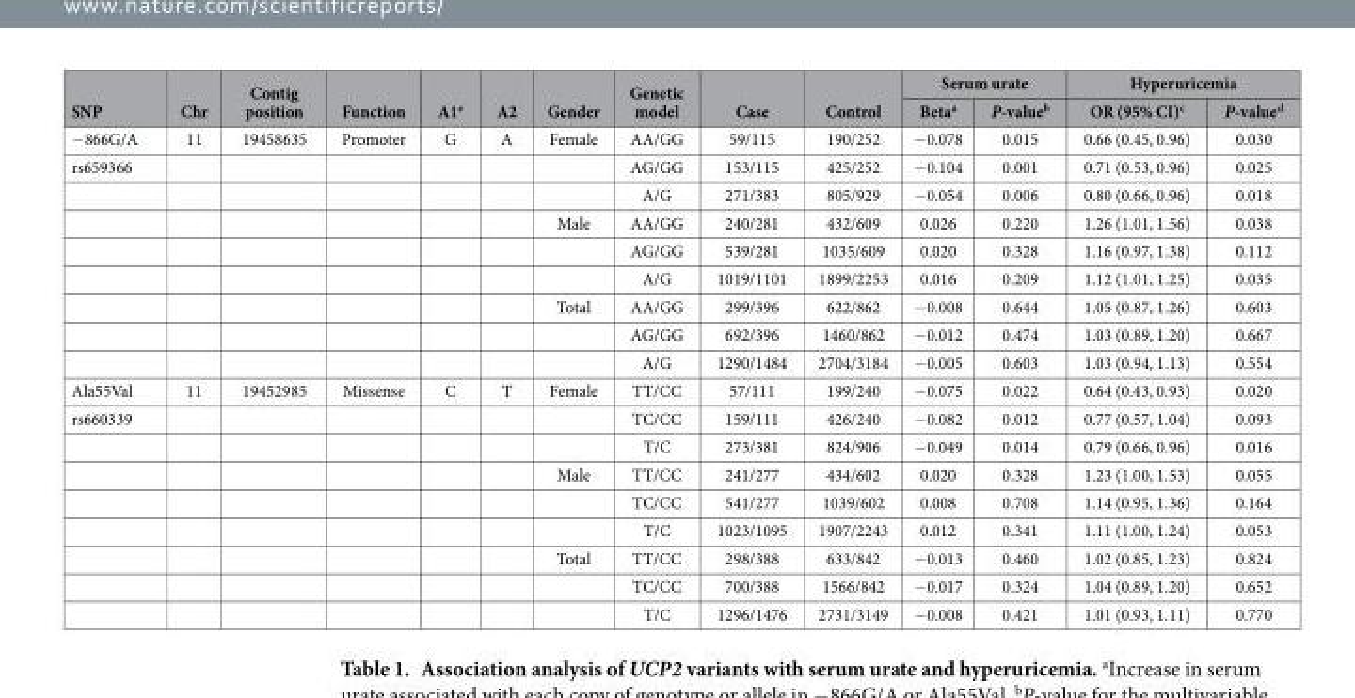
<table><thead><tr><td rowspan="2">SNP</td><td rowspan="2">Chr</td><td rowspan="2">Contig position</td><td rowspan="2">Function</td><td rowspan="2">A1<sup>e</sup></td><td rowspan="2">A2</td><td rowspan="2">Gender</td><td rowspan="2">Genetic model</td><td rowspan="2">Case</td><td rowspan="2">Control</td><td colspan="2">Serum urate</td><td colspan="2">Hyperuricemia</td></tr><tr><td>Beta<sup>a</sup></td><td>P-value<sup>b</sup></td><td>OR (95% CI)<sup>c</sup></td><td>P-value<sup>d</sup></td></tr></thead><tbody><tr><td>− 866G/A</td><td>11</td><td>19458635</td><td>Promoter</td><td>G</td><td>A</td><td>Female</td><td>AA/GG</td><td>59/115</td><td>190/252</td><td>−0.078</td><td>0.015</td><td>0.66 (0.45, 0.96)</td><td>0.030</td></tr><tr><td rowspan="8">rs659366</td><td></td><td></td><td></td><td></td><td></td><td></td><td>AG/GG</td><td>153/115</td><td>425/252</td><td>−0.104</td><td>0.001</td><td>0.71 (0.53, 0.96)</td><td>0.025</td></tr><tr><td></td><td></td><td></td><td></td><td></td><td></td><td>A/G</td><td>271/383</td><td>805/929</td><td>−0.054</td><td>0.006</td><td>0.80 (0.66, 0.96)</td><td>0.018</td></tr><tr><td></td><td></td><td></td><td></td><td></td><td>Male</td><td>AA/GG</td><td>240/281</td><td>432/609</td><td>0.026</td><td>0.220</td><td>1.26 (1.01, 1.56)</td><td>0.038</td></tr><tr><td></td><td></td><td></td><td></td><td></td><td></td><td>AG/GG</td><td>539/281</td><td>1035/609</td><td>0.020</td><td>0.328</td><td>1.16 (0.97, 1.38)</td><td>0.112</td></tr><tr><td></td><td></td><td></td><td></td><td></td><td></td><td>A/G</td><td>1019/1101</td><td>1899/2253</td><td>0.016</td><td>0.209</td><td>1.12 (1.01, 1.25)</td><td>0.035</td></tr><tr><td></td><td></td><td></td><td></td><td></td><td>Total</td><td>AA/GG</td><td>299/396</td><td>622/862</td><td>−0.008</td><td>0.644</td><td>1.05 (0.87, 1.26)</td><td>0.603</td></tr><tr><td></td><td></td><td></td><td></td><td></td><td></td><td>AG/GG</td><td>692/396</td><td>1460/862</td><td>−0.012</td><td>0.474</td><td>1.03 (0.89, 1.20)</td><td>0.667</td></tr><tr><td></td><td></td><td></td><td></td><td></td><td></td><td>A/G</td><td>1290/1484</td><td>2704/3184</td><td>−0.005</td><td>0.603</td><td>1.03 (0.94, 1.13)</td><td>0.554</td></tr><tr><td>Ala55Val</td><td>11</td><td>19452985</td><td>Missense</td><td>C</td><td>T</td><td>Female</td><td>TT/CC</td><td>57/111</td><td>199/240</td><td>−0.075</td><td>0.022</td><td>0.64 (0.43, 0.93)</td><td>0.020</td></tr><tr><td rowspan="8">rs660339</td><td></td><td></td><td></td><td></td><td></td><td></td><td>TC/CC</td><td>159/111</td><td>426/240</td><td>−0.082</td><td>0.012</td><td>0.77 (0.57, 1.04)</td><td>0.093</td></tr><tr><td></td><td></td><td></td><td></td><td></td><td></td><td>T/C</td><td>273/381</td><td>824/906</td><td>−0.049</td><td>0.014</td><td>0.79 (0.66, 0.96)</td><td>0.016</td></tr><tr><td></td><td></td><td></td><td></td><td></td><td>Male</td><td>TT/CC</td><td>241/277</td><td>434/602</td><td>0.020</td><td>0.328</td><td>1.23 (1.00, 1.53)</td><td>0.055</td></tr><tr><td></td><td></td><td></td><td></td><td></td><td></td><td>TC/CC</td><td>541/277</td><td>1039/602</td><td>0.008</td><td>0.708</td><td>1.14 (0.95, 1.36)</td><td>0.164</td></tr><tr><td></td><td></td><td></td><td></td><td></td><td></td><td>T/C</td><td>1023/1095</td><td>1907/2243</td><td>0.012</td><td>0.341</td><td>1.11 (1.00, 1.24)</td><td>0.053</td></tr><tr><td></td><td></td><td></td><td></td><td></td><td>Total</td><td>TT/CC</td><td>298/388</td><td>633/842</td><td>−0.013</td><td>0.460</td><td>1.02 (0.85, 1.23)</td><td>0.824</td></tr><tr><td></td><td></td><td></td><td></td><td></td><td></td><td>TC/CC</td><td>700/388</td><td>1566/842</td><td>−0.017</td><td>0.324</td><td>1.04 (0.89, 1.20)</td><td>0.652</td></tr><tr><td></td><td></td><td></td><td></td><td></td><td></td><td>T/C</td><td>1296/1476</td><td>2731/3149</td><td>−0.008</td><td>0.421</td><td>1.01 (0.93, 1.11)</td><td>0.770</td></tr></tbody></table>